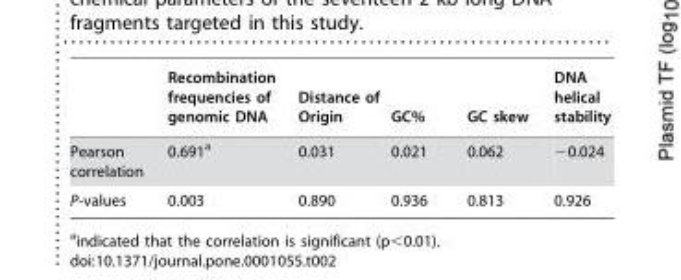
<table><thead><tr><td></td><td>Recombination frequencies of genomic DNA</td><td>Distance of Origin</td><td>GC%</td><td>GC skew</td><td>DNA helical stability</td></tr></thead><tbody><tr><td>Pearson correlation</td><td>0.691<sup>a</sup></td><td>0.031</td><td>0.021</td><td>0.062</td><td>−0.024</td></tr><tr><td>P-values</td><td>0.003</td><td>0.890</td><td>0.936</td><td>0.813</td><td>0.926</td></tr></tbody></table>